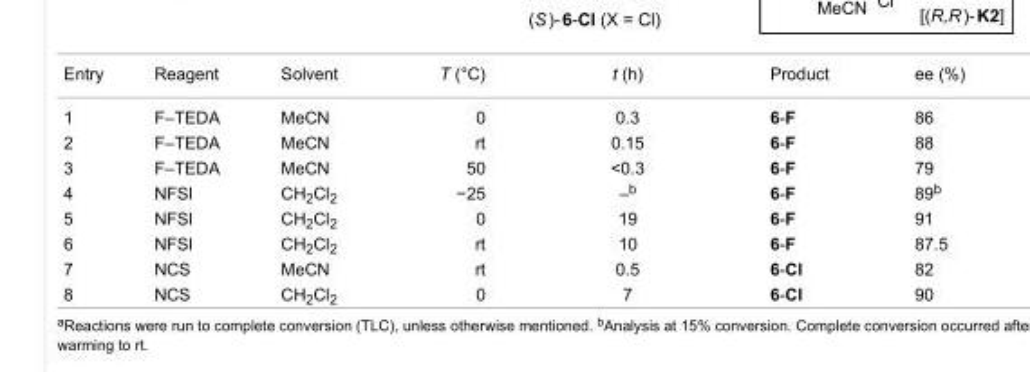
<table><tbody><tr><td>Entry</td><td>Reagent</td><td>Solvent</td><td>T (°C)</td><td>t (h)</td><td>Product</td><td>ee (%)</td></tr><tr><td>1</td><td>F–TEDA</td><td>MeCN</td><td>0</td><td>0.3</td><td>6-F</td><td>86</td></tr><tr><td>2</td><td>F–TEDA</td><td>MeCN</td><td>rt</td><td>0.15</td><td>6-F</td><td>88</td></tr><tr><td>3</td><td>F–TEDA</td><td>MeCN</td><td>50</td><td>&lt;0.3</td><td>6-F</td><td>79</td></tr><tr><td>4</td><td>NFSI</td><td>CH<sub>2</sub>Cl<sub>2</sub></td><td>−25</td><td>–<sup>b</sup></td><td>6-F</td><td>89<sup>b</sup></td></tr><tr><td>5</td><td>NFSI</td><td>CH<sub>2</sub>Cl<sub>2</sub></td><td>0</td><td>19</td><td>6-F</td><td>91</td></tr><tr><td>6</td><td>NFSI</td><td>CH<sub>2</sub>Cl<sub>2</sub></td><td>rt</td><td>10</td><td>6-F</td><td>87.5</td></tr><tr><td>7</td><td>NCS</td><td>MeCN</td><td>rt</td><td>0.5</td><td>6-Cl</td><td>82</td></tr><tr><td>8</td><td>NCS</td><td>CH<sub>2</sub>Cl<sub>2</sub></td><td>0</td><td>7</td><td>6-Cl</td><td>90</td></tr></tbody></table>